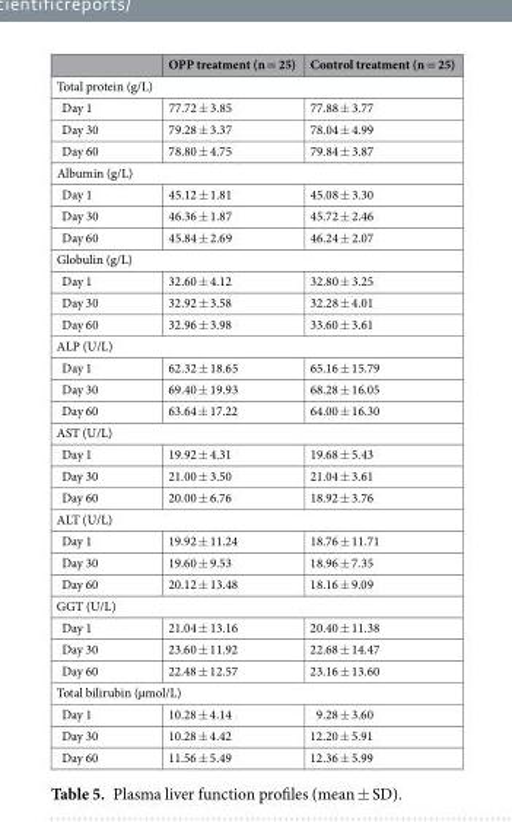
<table><thead><tr><td></td><td>OPP treatment (n = 25)</td><td>Control treatment (n = 25)</td></tr></thead><tbody><tr><td colspan="3">Total protein (g/L)</td></tr><tr><td>Day 1</td><td>77.72 ± 3.85</td><td>77.88 ± 3.77</td></tr><tr><td>Day 30</td><td>79.28 ± 3.37</td><td>78.04 ± 4.99</td></tr><tr><td>Day 60</td><td>78.80 ± 4.75</td><td>79.84 ± 3.87</td></tr><tr><td colspan="3">Albumin (g/L)</td></tr><tr><td>Day 1</td><td>45.12 ± 1.81</td><td>45.08 ± 3.30</td></tr><tr><td>Day 30</td><td>46.36 ± 1.87</td><td>45.72 ± 2.46</td></tr><tr><td>Day 60</td><td>45.84 ± 2.69</td><td>46.24 ± 2.07</td></tr><tr><td colspan="3">Globulin (g/L)</td></tr><tr><td>Day 1</td><td>32.60 ± 4.12</td><td>32.80 ± 3.25</td></tr><tr><td>Day 30</td><td>32.92 ± 3.58</td><td>32.28 ± 4.01</td></tr><tr><td>Day 60</td><td>32.96 ± 3.98</td><td>33.60 ± 3.61</td></tr><tr><td colspan="3">ALP (U/L)</td></tr><tr><td>Day 1</td><td>62.32 ± 18.65</td><td>65.16 ± 15.79</td></tr><tr><td>Day 30</td><td>69.40 ± 19.93</td><td>68.28 ± 16.05</td></tr><tr><td>Day 60</td><td>63.64 ± 17.22</td><td>64.00 ± 16.30</td></tr><tr><td colspan="3">AST (U/L)</td></tr><tr><td>Day 1</td><td>19.92 ± 4.31</td><td>19.68 ± 5.43</td></tr><tr><td>Day 30</td><td>21.00 ± 3.50</td><td>21.04 ± 3.61</td></tr><tr><td>Day 60</td><td>20.00 ± 6.76</td><td>18.92 ± 3.76</td></tr><tr><td colspan="3">ALT (U/L)</td></tr><tr><td>Day 1</td><td>19.92 ± 11.24</td><td>18.76 ± 11.71</td></tr><tr><td>Day 30</td><td>19.60 ± 9.53</td><td>18.96 ± 7.35</td></tr><tr><td>Day 60</td><td>20.12 ± 13.48</td><td>18.16 ± 9.09</td></tr><tr><td colspan="3">GGT (U/L)</td></tr><tr><td>Day 1</td><td>21.04 ± 13.16</td><td>20.40 ± 11.38</td></tr><tr><td>Day 30</td><td>23.60 ± 11.92</td><td>22.68 ± 14.47</td></tr><tr><td>Day 60</td><td>22.48 ± 12.57</td><td>23.16 ± 13.60</td></tr><tr><td colspan="3">Total bilirubin (µmol/L)</td></tr><tr><td>Day 1</td><td>10.28 ± 4.14</td><td>9.28 ± 3.60</td></tr><tr><td>Day 30</td><td>10.28 ± 4.42</td><td>12.20 ± 5.91</td></tr><tr><td>Day 60</td><td>11.56 ± 5.49</td><td>12.36 ± 5.99</td></tr></tbody></table>